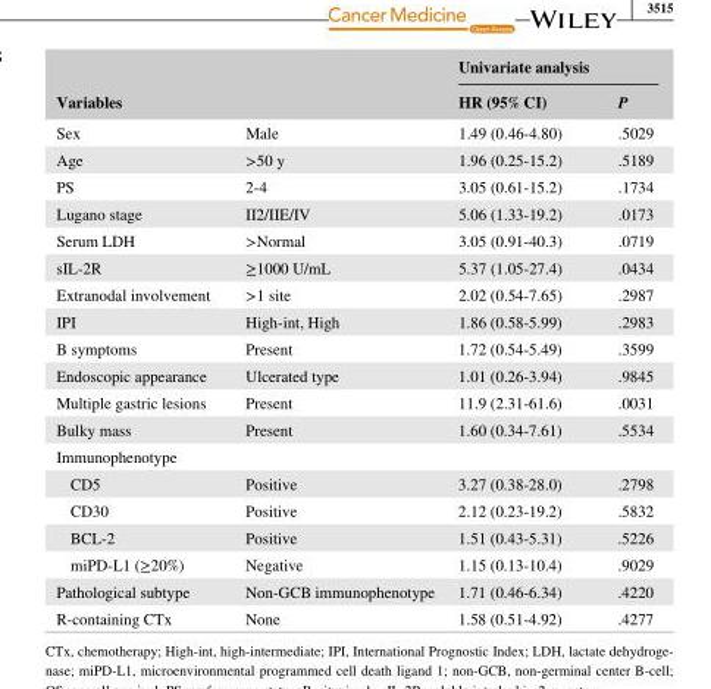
<table><thead><tr><td rowspan="2" colspan="2">Variables</td><td colspan="2">Univariate analysis</td></tr><tr><td rowspan="2">HR (95% CI) 1.49 (0.46- 4.80)</td><td rowspan="2">P .5029</td></tr><tr><td>Sex</td><td>Male</td></tr></thead><tbody><tr><td>Age</td><td>&gt;50 y</td><td>1.96 (0.25- 15.2)</td><td>.5189</td></tr><tr><td>PS</td><td>2- 4</td><td>3.05 (0.61- 15.2)</td><td>.1734</td></tr><tr><td>Lugano stage</td><td>II2/IIE/IV</td><td>5.06 (1.33- 19.2)</td><td>.0173</td></tr><tr><td>Serum LDH</td><td>&gt;Normal</td><td>3.05 (0.91- 40.3)</td><td>.0719</td></tr><tr><td>sIL- 2R</td><td>≥1000 U/mL</td><td>5.37 (1.05- 27.4)</td><td>.0434</td></tr><tr><td>Extranodal involvement</td><td>&gt;1 site</td><td>2.02 (0.54- 7.65)</td><td>.2987</td></tr><tr><td>IPI</td><td>High‐int, High</td><td>1.86 (0.58- 5.99)</td><td>.2983</td></tr><tr><td>B symptoms</td><td>Present</td><td>1.72 (0.54- 5.49)</td><td>.3599</td></tr><tr><td>Endoscopic appearance</td><td>Ulcerated type</td><td>1.01 (0.26- 3.94)</td><td>.9845</td></tr><tr><td>Multiple gastric lesions</td><td>Present</td><td>11.9 (2.31- 61.6)</td><td>.0031</td></tr><tr><td>Bulky mass</td><td>Present</td><td>1.60 (0.34- 7.61)</td><td>.5534</td></tr><tr><td colspan="4">Immunophenotype</td></tr><tr><td>CD5</td><td>Positive</td><td>3.27 (0.38- 28.0)</td><td>.2798</td></tr><tr><td>CD30</td><td>Positive</td><td>2.12 (0.23- 19.2)</td><td>.5832</td></tr><tr><td>BCL- 2</td><td>Positive</td><td>1.51 (0.43- 5.31)</td><td>.5226</td></tr><tr><td>miPD- L1 (≥20%)</td><td>Negative</td><td>1.15 (0.13- 10.4)</td><td>.9029</td></tr><tr><td>Pathological subtype</td><td>Non- GCB immunophenotype</td><td>1.71 (0.46- 6.34)</td><td>.4220</td></tr><tr><td>R- containing CTx</td><td>None</td><td>1.58 (0.51- 4.92)</td><td>.4277</td></tr></tbody></table>